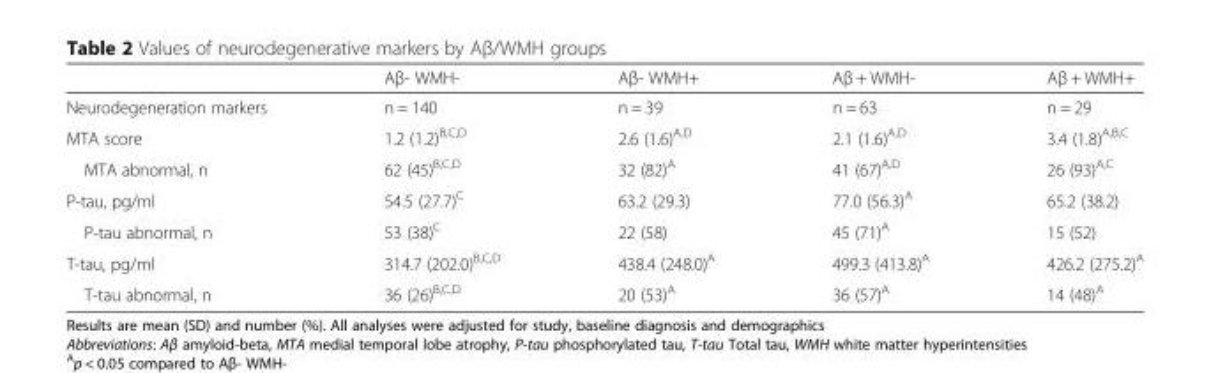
<table><thead><tr><td></td><td>Aβ- WMH-</td><td>Aβ- WMH+</td><td>Aβ + WMH-</td><td>Aβ + WMH+</td></tr></thead><tbody><tr><td>Neurodegeneration markers</td><td>n = 140</td><td>n = 39</td><td>n = 63</td><td>n = 29</td></tr><tr><td>MTA score</td><td>1.2 (1.2)<sup>B,C,D</sup></td><td>2.6 (1.6)<sup>A,D</sup></td><td>2.1 (1.6)<sup>A,D</sup></td><td>3.4 (1.8)<sup>A,B,C</sup></td></tr><tr><td>MTA abnormal, n</td><td>62 (45)<sup>B,C,D</sup></td><td>32 (82)<sup>A</sup></td><td>41 (67)<sup>A,D</sup></td><td>26 (93)<sup>A,C</sup></td></tr><tr><td>P-tau, pg/ml</td><td>54.5 (27.7)<sup>C</sup></td><td>63.2 (29.3)</td><td>77.0 (56.3)<sup>A</sup></td><td>65.2 (38.2)</td></tr><tr><td>P-tau abnormal, n</td><td>53 (38)<sup>C</sup></td><td>22 (58)</td><td>45 (71)<sup>A</sup></td><td>15 (52)</td></tr><tr><td>T-tau, pg/ml</td><td>314.7 (202.0)<sup>B,C,D</sup></td><td>438.4 (248.0)<sup>A</sup></td><td>499.3 (413.8)<sup>A</sup></td><td>426.2 (275.2)<sup>A</sup></td></tr><tr><td>T-tau abnormal, n</td><td>36 (26)<sup>B,C,D</sup></td><td>20 (53)<sup>A</sup></td><td>36 (57)<sup>A</sup></td><td>14 (48)<sup>A</sup></td></tr></tbody></table>